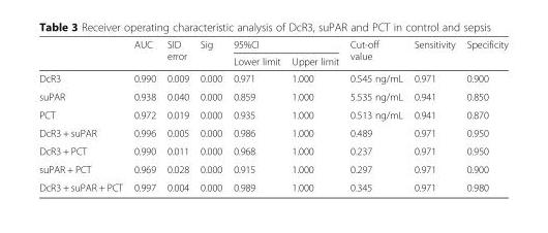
<table><thead><tr><td rowspan="2"></td><td rowspan="2">AUC</td><td rowspan="2">SID error</td><td rowspan="2">Sig</td><td colspan="2">95%CI</td><td rowspan="2">Cut-off value</td><td rowspan="2">Sensitivity</td><td rowspan="2">Specificity</td></tr><tr><td>Lower limit</td><td>Upper limit</td></tr></thead><tbody><tr><td>DcR3</td><td>0.990</td><td>0.009</td><td>0.000</td><td>0.971</td><td>1.000</td><td>0.545 ng/mL</td><td>0.971</td><td>0.900</td></tr><tr><td>suPAR</td><td>0.938</td><td>0.040</td><td>0.000</td><td>0.859</td><td>1.000</td><td>5.535 ng/mL</td><td>0.941</td><td>0.850</td></tr><tr><td>PCT</td><td>0.972</td><td>0.019</td><td>0.000</td><td>0.935</td><td>1.000</td><td>0.513 ng/mL</td><td>0.941</td><td>0.870</td></tr><tr><td>DcR3 + suPAR</td><td>0.996</td><td>0.005</td><td>0.000</td><td>0.986</td><td>1.000</td><td>0.489</td><td>0.971</td><td>0.950</td></tr><tr><td>DcR3 + PCT</td><td>0.990</td><td>0.011</td><td>0.000</td><td>0.968</td><td>1.000</td><td>0.237</td><td>0.971</td><td>0.950</td></tr><tr><td>suPAR + PCT</td><td>0.969</td><td>0.028</td><td>0.000</td><td>0.915</td><td>1.000</td><td>0.297</td><td>0.971</td><td>0.900</td></tr><tr><td>DcR3 + suPAR + PCT</td><td>0.997</td><td>0.004</td><td>0.000</td><td>0.989</td><td>1.000</td><td>0.345</td><td>0.971</td><td>0.980</td></tr></tbody></table>